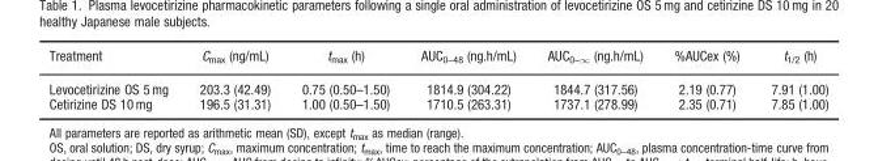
<table><thead><tr><td>Treatment</td><td>C<sub>max</sub> (ng/mL)</td><td>t<sub>max</sub> (h)</td><td>AUC<sub>0–48</sub> (ng.h/mL)</td><td>AUC<sub>0–∞</sub> (ng.h/mL)</td><td>%AUCex (%)</td><td>t<sub>1/2</sub> (h)</td></tr></thead><tbody><tr><td>Levocetirizine OS 5 mg</td><td>203.3 (42.49)</td><td>0.75 (0.50–1.50)</td><td>1814.9 (304.22)</td><td>1844.7 (317.56)</td><td>2.19 (0.77)</td><td>7.91 (1.00)</td></tr><tr><td>Cetirizine DS 10 mg</td><td>196.5 (31.31)</td><td>1.00 (0.50–1.50)</td><td>1710.5 (263.31)</td><td>1737.1 (278.99)</td><td>2.35 (0.71)</td><td>7.85 (1.00)</td></tr></tbody></table>